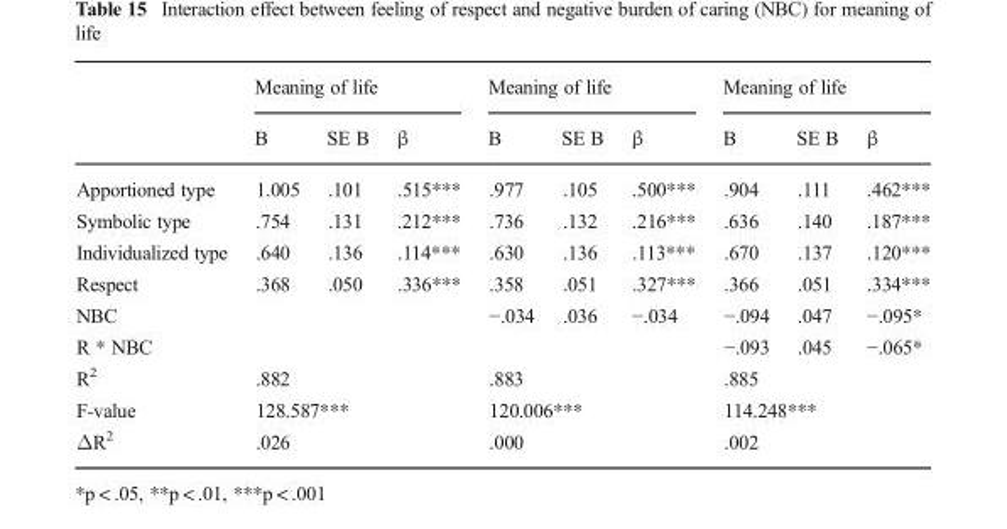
<table><thead><tr><td rowspan="2"></td><td colspan="3">Meaning of life</td><td colspan="3">Meaning of life</td><td colspan="3">Meaning of life</td></tr><tr><td>B</td><td>SE B</td><td>β</td><td>B</td><td>SE B</td><td>β</td><td>B</td><td>SE B</td><td>β</td></tr></thead><tbody><tr><td>Apportioned type</td><td>1.005</td><td>.101</td><td>.515***</td><td>.977</td><td>.105</td><td>.500***</td><td>.904</td><td>.111</td><td>.462***</td></tr><tr><td>Symbolic type</td><td>.754</td><td>.131</td><td>.212***</td><td>.736</td><td>.132</td><td>.216***</td><td>.636</td><td>.140</td><td>.187***</td></tr><tr><td>Individualized type</td><td>.640</td><td>.136</td><td>.114***</td><td>.630</td><td>.136</td><td>.113***</td><td>.670</td><td>.137</td><td>.120***</td></tr><tr><td>Respect</td><td>.368</td><td>.050</td><td>.336***</td><td>.358</td><td>.051</td><td>.327***</td><td>.366</td><td>.051</td><td>.334***</td></tr><tr><td>NBC</td><td></td><td></td><td></td><td>−.034</td><td>.036</td><td>−.034</td><td>−.094</td><td>.047</td><td>−.095*</td></tr><tr><td>R * NBC</td><td></td><td></td><td></td><td></td><td></td><td></td><td>−.093</td><td>.045</td><td>−.065*</td></tr><tr><td>R<sup>2</sup></td><td colspan="3">.882</td><td colspan="3">.883</td><td colspan="3">.885</td></tr><tr><td>F-value</td><td colspan="3">128.587***</td><td colspan="3">120.006***</td><td colspan="3">114.248***</td></tr><tr><td>ΔR<sup>2</sup></td><td colspan="3">.026</td><td colspan="3">.000</td><td colspan="3">.002</td></tr></tbody></table>